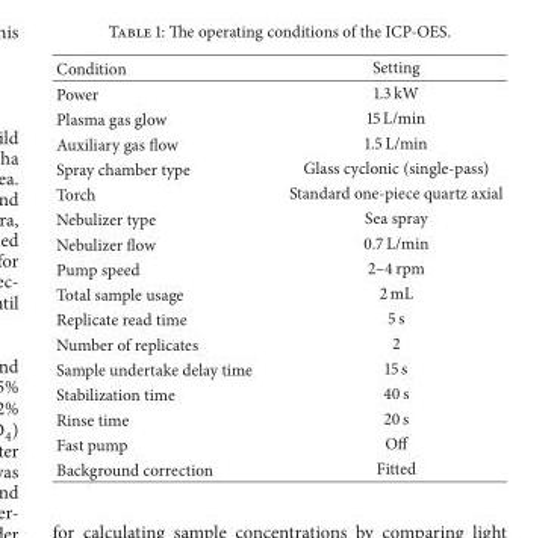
<table><thead><tr><td>Condition</td><td>Setting</td></tr></thead><tbody><tr><td>Power</td><td>1.3 kW</td></tr><tr><td>Plasma gas glow</td><td>15 L/min</td></tr><tr><td>Auxiliary gas flow</td><td>1.5 L/min</td></tr><tr><td>Spray chamber type</td><td>Glass cyclonic (single-pass)</td></tr><tr><td>Torch</td><td>Standard one-piece quartz axial</td></tr><tr><td>Nebulizer type</td><td>Sea spray</td></tr><tr><td>Nebulizer flow</td><td>0.7 L/min</td></tr><tr><td>Pump speed</td><td>2–4 rpm</td></tr><tr><td>Total sample usage</td><td>2 mL</td></tr><tr><td>Replicate read time</td><td>5 s</td></tr><tr><td>Number of replicates</td><td>2</td></tr><tr><td>Sample undertake delay time</td><td>15 s</td></tr><tr><td>Stabilization time</td><td>40 s</td></tr><tr><td>Rinse time</td><td>20 s</td></tr><tr><td>Fast pump</td><td>Off</td></tr><tr><td>Background correction</td><td>Fitted</td></tr></tbody></table>